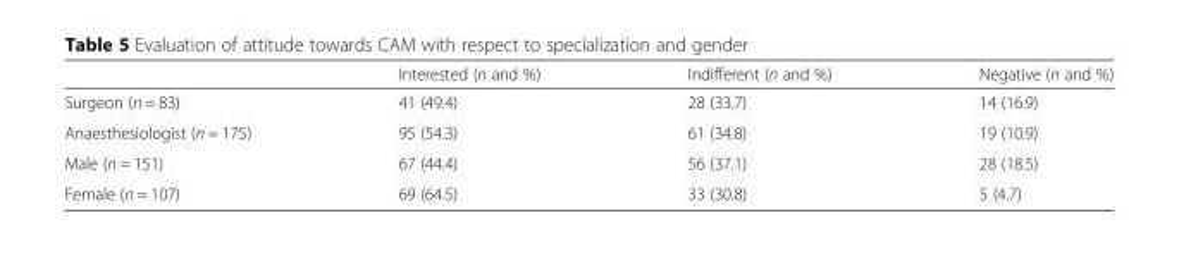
<table><thead><tr><td></td><td>Interested (n and %)</td><td>Indifferent (n and %)</td><td>Negative (n and %)</td></tr></thead><tbody><tr><td>Surgeon (n = 83)</td><td>41 (49.4)</td><td>28 (33.7)</td><td>14 (16.9)</td></tr><tr><td>Anaesthesiologist (n = 175)</td><td>95 (54.3)</td><td>61 (34.8)</td><td>19 (10.9)</td></tr><tr><td>Male (n = 151)</td><td>67 (44.4)</td><td>56 (37.1)</td><td>28 (18.5)</td></tr><tr><td>Female (n = 107)</td><td>69 (64.5)</td><td>33 (30.8)</td><td>5 (4.7)</td></tr></tbody></table>